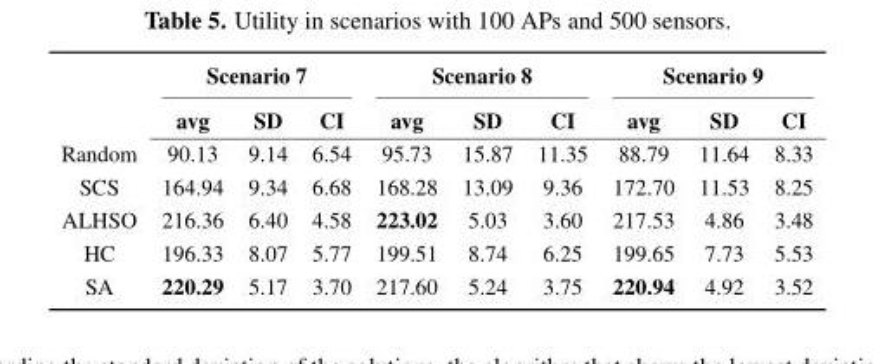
<table><thead><tr><td rowspan="2"></td><td colspan="3">Scenario 7</td><td colspan="3">Scenario 8</td><td colspan="3">Scenario 9</td></tr><tr><td>avg</td><td>SD</td><td>CI</td><td>avg</td><td>SD</td><td>CI</td><td>avg</td><td>SD</td><td>CI</td></tr></thead><tbody><tr><td>Random</td><td>90.13</td><td>9.14</td><td>6.54</td><td>95.73</td><td>15.87</td><td>11.35</td><td>88.79</td><td>11.64</td><td>8.33</td></tr><tr><td>SCS</td><td>164.94</td><td>9.34</td><td>6.68</td><td>168.28</td><td>13.09</td><td>9.36</td><td>172.70</td><td>11.53</td><td>8.25</td></tr><tr><td>ALHSO</td><td>216.36</td><td>6.40</td><td>4.58</td><td>223.02</td><td>5.03</td><td>3.60</td><td>217.53</td><td>4.86</td><td>3.48</td></tr><tr><td>HC</td><td>196.33</td><td>8.07</td><td>5.77</td><td>199.51</td><td>8.74</td><td>6.25</td><td>199.65</td><td>7.73</td><td>5.53</td></tr><tr><td>SA</td><td>220.29</td><td>5.17</td><td>3.70</td><td>217.60</td><td>5.24</td><td>3.75</td><td>220.94</td><td>4.92</td><td>3.52</td></tr></tbody></table>